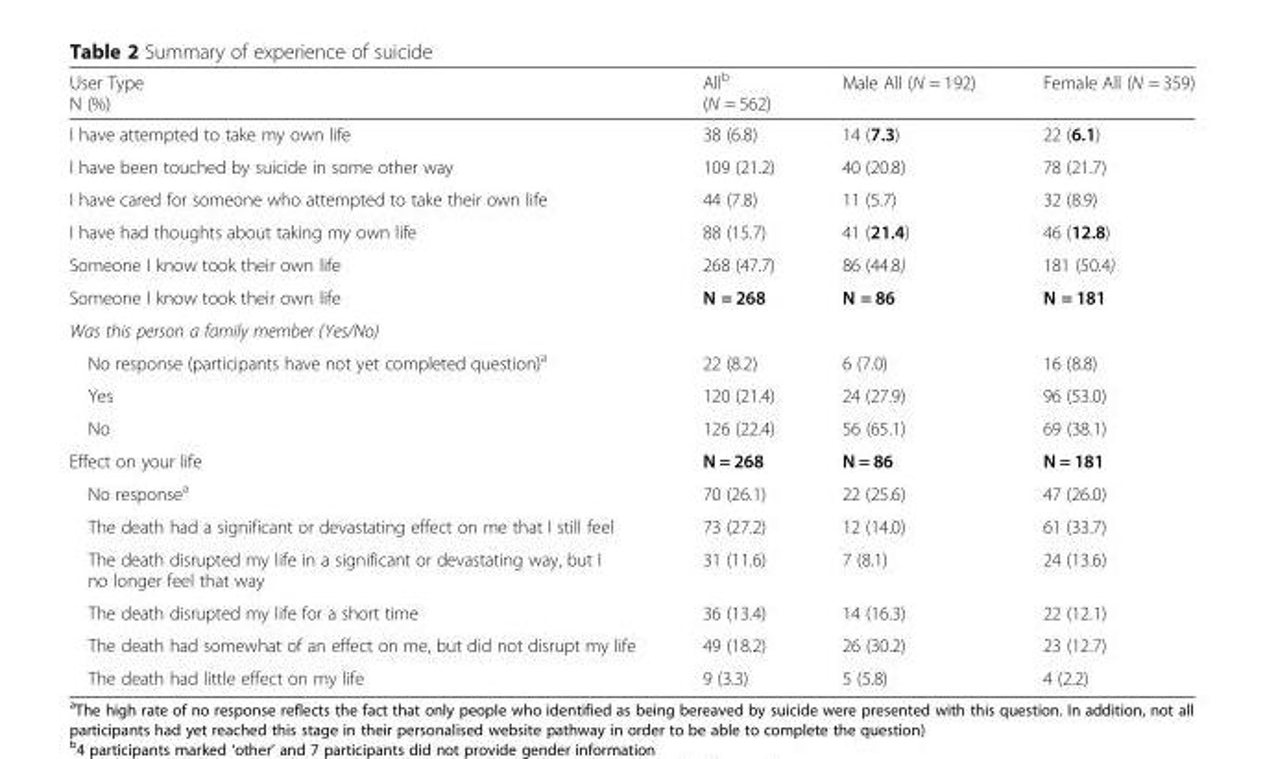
<table><thead><tr><td>User Type N (%)</td><td>All<sup>b</sup> (N = 562)</td><td>Male All (N = 192)</td><td>Female All (N = 359)</td></tr></thead><tbody><tr><td>I have attempted to take my own life</td><td>38 (6.8)</td><td>14 (7.3)</td><td>22 (6.1)</td></tr><tr><td>I have been touched by suicide in some other way</td><td>109 (21.2)</td><td>40 (20.8)</td><td>78 (21.7)</td></tr><tr><td>I have cared for someone who attempted to take their own life</td><td>44 (7.8)</td><td>11 (5.7)</td><td>32 (8.9)</td></tr><tr><td>I have had thoughts about taking my own life</td><td>88 (15.7)</td><td>41 (21.4)</td><td>46 (12.8)</td></tr><tr><td>Someone I know took their own life</td><td>268 (47.7)</td><td>86 (44.8)</td><td>181 (50.4)</td></tr><tr><td>Someone I know took their own life</td><td>N = 268</td><td>N = 86</td><td>N = 181</td></tr><tr><td colspan="4">Was this person a family member (Yes/No)</td></tr><tr><td>No response (participants have not yet completed question)<sup>a</sup></td><td>22 (8.2)</td><td>6 (7.0)</td><td>16 (8.8)</td></tr><tr><td>Yes</td><td>120 (21.4)</td><td>24 (27.9)</td><td>96 (53.0)</td></tr><tr><td>No</td><td>126 (22.4)</td><td>56 (65.1)</td><td>69 (38.1)</td></tr><tr><td>Effect on your life</td><td>N = 268</td><td>N = 86</td><td>N = 181</td></tr><tr><td>No response<sup>a</sup></td><td>70 (26.1)</td><td>22 (25.6)</td><td>47 (26.0)</td></tr><tr><td>The death had a significant or devastating effect on me that I still feel</td><td>73 (27.2)</td><td>12 (14.0)</td><td>61 (33.7)</td></tr><tr><td>The death disrupted my life in a significant or devastating way, but I no longer feel that way</td><td>31 (11.6)</td><td>7 (8.1)</td><td>24 (13.6)</td></tr><tr><td>The death disrupted my life for a short time</td><td>36 (13.4)</td><td>14 (16.3)</td><td>22 (12.1)</td></tr><tr><td>The death had somewhat of an effect on me, but did not disrupt my life</td><td>49 (18.2)</td><td>26 (30.2)</td><td>23 (12.7)</td></tr><tr><td>The death had little effect on my life</td><td>9 (3.3)</td><td>5 (5.8)</td><td>4 (2.2)</td></tr></tbody></table>